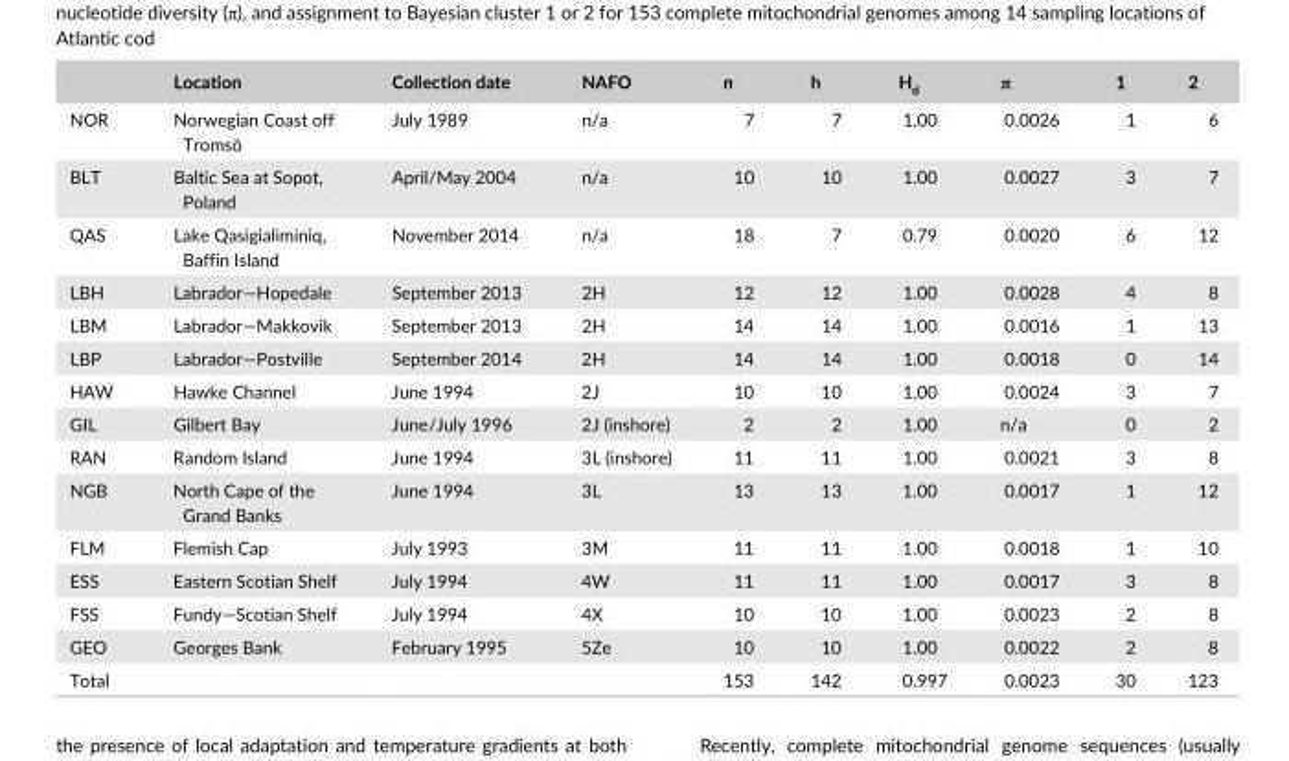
<table><thead><tr><td></td><td>Location</td><td>Collection date</td><td>NAFO</td><td>n</td><td>h</td><td>H<sub>d</sub></td><td>π</td><td>1</td><td>2</td></tr></thead><tbody><tr><td>NOR</td><td>Norwegian Coast off Tromsö</td><td>July 1989</td><td>n/a</td><td>7</td><td>7</td><td>1.00</td><td>0.0026</td><td>1</td><td>6</td></tr><tr><td>BLT</td><td>Baltic Sea at Sopot, Poland</td><td>April/May 2004</td><td>n/a</td><td>10</td><td>10</td><td>1.00</td><td>0.0027</td><td>3</td><td>7</td></tr><tr><td>QAS</td><td>Lake Qasigialiminiq, Baffin Island</td><td>November 2014</td><td>n/a</td><td>18</td><td>7</td><td>0.79</td><td>0.0020</td><td>6</td><td>12</td></tr><tr><td>LBH</td><td>Labrador—Hopedale</td><td>September 2013</td><td>2H</td><td>12</td><td>12</td><td>1.00</td><td>0.0028</td><td>4</td><td>8</td></tr><tr><td>LBM</td><td>Labrador—Makkovik</td><td>September 2013</td><td>2H</td><td>14</td><td>14</td><td>1.00</td><td>0.0016</td><td>1</td><td>13</td></tr><tr><td>LBP</td><td>Labrador—Postville</td><td>September 2014</td><td>2H</td><td>14</td><td>14</td><td>1.00</td><td>0.0018</td><td>0</td><td>14</td></tr><tr><td>HAW</td><td>Hawke Channel</td><td>June 1994</td><td>2J</td><td>10</td><td>10</td><td>1.00</td><td>0.0024</td><td>3</td><td>7</td></tr><tr><td>GIL</td><td>Gilbert Bay</td><td>June/July 1996</td><td>2J (inshore)</td><td>2</td><td>2</td><td>1.00</td><td>n/a</td><td>0</td><td>2</td></tr><tr><td>RAN</td><td>Random Island</td><td>June 1994</td><td>3L (inshore)</td><td>11</td><td>11</td><td>1.00</td><td>0.0021</td><td>3</td><td>8</td></tr><tr><td>NGB</td><td>North Cape of the Grand Banks</td><td>June 1994</td><td>3L</td><td>13</td><td>13</td><td>1.00</td><td>0.0017</td><td>1</td><td>12</td></tr><tr><td>FLM</td><td>Flemish Cap</td><td>July 1993</td><td>3M</td><td>11</td><td>11</td><td>1.00</td><td>0.0018</td><td>1</td><td>10</td></tr><tr><td>ESS</td><td>Eastern Scotian Shelf</td><td>July 1994</td><td>4W</td><td>11</td><td>11</td><td>1.00</td><td>0.0017</td><td>3</td><td>8</td></tr><tr><td>FSS</td><td>Fundy—Scotian Shelf</td><td>July 1994</td><td>4X</td><td>10</td><td>10</td><td>1.00</td><td>0.0023</td><td>2</td><td>8</td></tr><tr><td>GEO</td><td>Georges Bank</td><td>February 1995</td><td>5Ze</td><td>10</td><td>10</td><td>1.00</td><td>0.0022</td><td>2</td><td>8</td></tr><tr><td>Total</td><td></td><td></td><td></td><td>153</td><td>142</td><td>0.997</td><td>0.0023</td><td>30</td><td>123</td></tr></tbody></table>